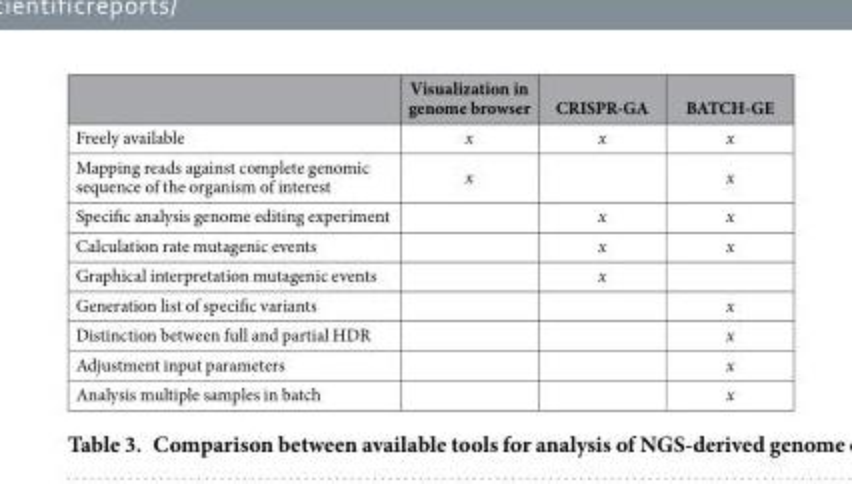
<table><thead><tr><td></td><td>Visualization in genome browser</td><td>CRISPR-GA</td><td>BATCH-GE</td></tr></thead><tbody><tr><td>Freely available</td><td>x</td><td>x</td><td>x</td></tr><tr><td>Mapping reads against complete genomic sequence of the organism of interest</td><td>x</td><td></td><td>x</td></tr><tr><td>Specific analysis genome editing experiment</td><td></td><td>x</td><td>x</td></tr><tr><td>Calculation rate mutagenic events</td><td></td><td>x</td><td>x</td></tr><tr><td>Graphical interpretation mutagenic events</td><td></td><td>x</td><td></td></tr><tr><td>Generation list of specific variants</td><td></td><td></td><td>x</td></tr><tr><td>Distinction between full and partial HDR</td><td></td><td></td><td>x</td></tr><tr><td>Adjustment input parameters</td><td></td><td></td><td>x</td></tr><tr><td>Analysis multiple samples in batch</td><td></td><td></td><td>x</td></tr></tbody></table>